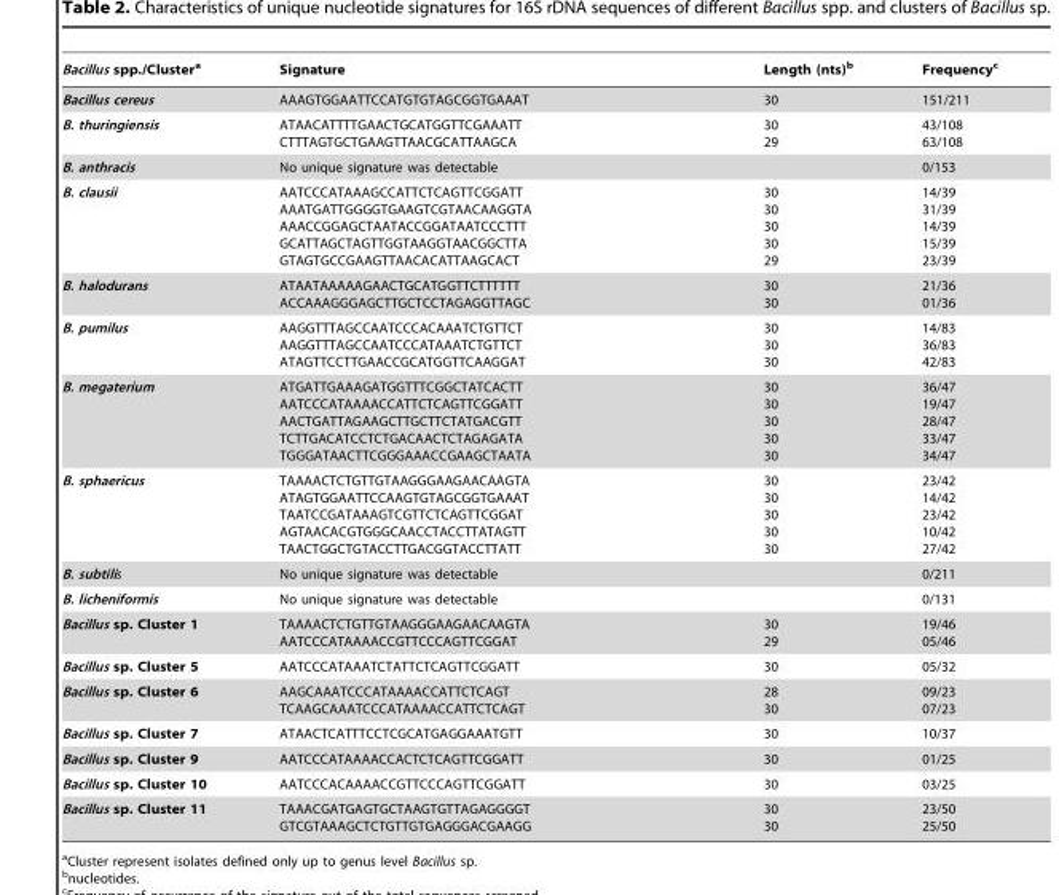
<table><thead><tr><td>Bacillus spp./Cluster<sup>a</sup></td><td>Signature</td><td>Length (nts)<sup>b</sup></td><td>Frequency<sup>c</sup></td></tr></thead><tbody><tr><td>Bacillus cereus</td><td>AAAGTGGAATTCCATGTGTAGCGGTGAAAT</td><td>30</td><td>151/211</td></tr><tr><td>B. thuringiensis</td><td>ATAACATTTTGAACTGCATGGTTCGAAATT CTTTAGTGCTGAAGTTAACGCATTAAGCA</td><td>30 29</td><td>43/108 63/108</td></tr><tr><td>B. anthracis</td><td>No unique signature was detectable</td><td></td><td>0/153</td></tr><tr><td>B. clausii</td><td>AATCCCATAAAGCCATTCTCAGTTCGGATT AAATGATTGGGGTGAAGTCGTAACAAGGTA AAACCGGAGCTAATACCGGATAATCCCTTT GCATTAGCTAGTTGGTAAGGTAACGGCTTA GTAGTGCCGAAGTTAACACATTAAGCACT</td><td>30 30 30 30 29</td><td>14/39 31/39 14/39 15/39 23/39</td></tr><tr><td>B. halodurans</td><td>ATAATAAAAAGAACTGCATGGTTCTTTTTT ACCAAAGGGAGCTTGCTCCTAGAGGTTAGC</td><td>30 30</td><td>21/36 01/36</td></tr><tr><td>B. pumilus</td><td>AAGGTTTAGCCAATCCCACAAATCTGTTCT AAGGTTTAGCCAATCCCATAAATCTGTTCT ATAGTTCCTTGAACCGCATGGTTCAAGGAT</td><td>30 30 30</td><td>14/83 36/83 42/83</td></tr><tr><td>B. megaterium</td><td>ATGATTGAAAGATGGTTTCGGCTATCACTT AATCCCATAAAACCATTCTCAGTTCGGATT AACTGATTAGAAGCTTGCTTCTATGACGTT TCTTGACATCCTCTGACAACTCTAGAGATA TGGGATAACTTCGGGAAACCGAAGCTAATA</td><td>30 30 30 30 30</td><td>36/47 19/47 28/47 33/47 34/47</td></tr><tr><td>B. sphaericus</td><td>TAAAACTCTGTTGTAAGGGAAGAACAAGTA ATAGTGGAATTCCAAGTGTAGCGGTGAAAT TAATCCGATAAAGTCGTTCTCAGTTCGGAT AGTAACACGTGGGCAACCTACCTTATAGTT TAACTGGCTGTACCTTGACGGTACCTTATT</td><td>30 30 30 30 30</td><td>23/42 14/42 23/42 10/42 27/42</td></tr><tr><td>B. subtilis</td><td>No unique signature was detectable</td><td></td><td>0/211</td></tr><tr><td>B. licheniformis</td><td>No unique signature was detectable</td><td></td><td>0/131</td></tr><tr><td>Bacillus sp. Cluster 1</td><td>TAAAACTCTGTTGTAAGGGAAGAACAAGTA AATCCCATAAAACCGTTCCCAGTTCGGAT</td><td>30 29</td><td>19/46 05/46</td></tr><tr><td>Bacillus sp. Cluster 5</td><td>AATCCCATAAATCTATTCTCAGTTCGGATT</td><td>30</td><td>05/32</td></tr><tr><td>Bacillus sp. Cluster 6</td><td>AAGCAAATCCCATAAAACCATTCTCAGT TCAAGCAAATCCCATAAAACCATTCTCAGT</td><td>28 30</td><td>09/23 07/23</td></tr><tr><td>Bacillus sp. Cluster 7</td><td>ATAACTCATTTCCTCGCATGAGGAAATGTT</td><td>30</td><td>10/37</td></tr><tr><td>Bacillus sp. Cluster 9</td><td>AATCCCATAAAACCACTCTCAGTTCGGATT</td><td>30</td><td>01/25</td></tr><tr><td>Bacillus sp. Cluster 10</td><td>AATCCCACAAAACCGTTCCCAGTTCGGATT</td><td>30</td><td>03/25</td></tr><tr><td>Bacillus sp. Cluster 11</td><td>TAAACGATGAGTGCTAAGTGTTAGAGGGGT GTCGTAAAGCTCTGTTGTGAGGGACGAAGG</td><td>30 30</td><td>23/50 25/50</td></tr></tbody></table>